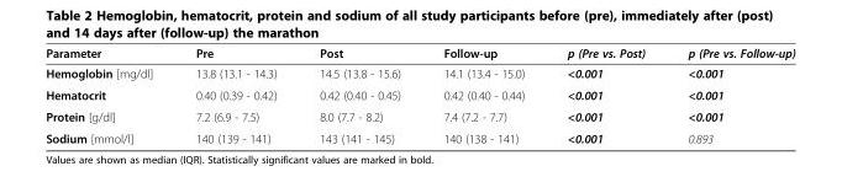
<table><thead><tr><td>Parameter</td><td>Pre</td><td>Post</td><td>Follow-up</td><td>p (Pre vs. Post)</td><td>p (Pre vs. Follow-up)</td></tr></thead><tbody><tr><td>Hemoglobin [mg/dl]</td><td>13.8 (13.1 - 14.3)</td><td>14.5 (13.8 - 15.6)</td><td>14.1 (13.4 - 15.0)</td><td>&lt;0.001</td><td>&lt;0.001</td></tr><tr><td>Hematocrit</td><td>0.40 (0.39 - 0.42)</td><td>0.42 (0.40 - 0.45)</td><td>0.42 (0.40 - 0.44)</td><td>&lt;0.001</td><td>&lt;0.001</td></tr><tr><td>Protein [g/dl]</td><td>7.2 (6.9 - 7.5)</td><td>8.0 (7.7 - 8.2)</td><td>7.4 (7.2 - 7.7)</td><td>&lt;0.001</td><td>&lt;0.001</td></tr><tr><td>Sodium [mmol/l]</td><td>140 (139 - 141)</td><td>143 (141 - 145)</td><td>140 (138 - 141)</td><td>&lt;0.001</td><td>0.893</td></tr></tbody></table>